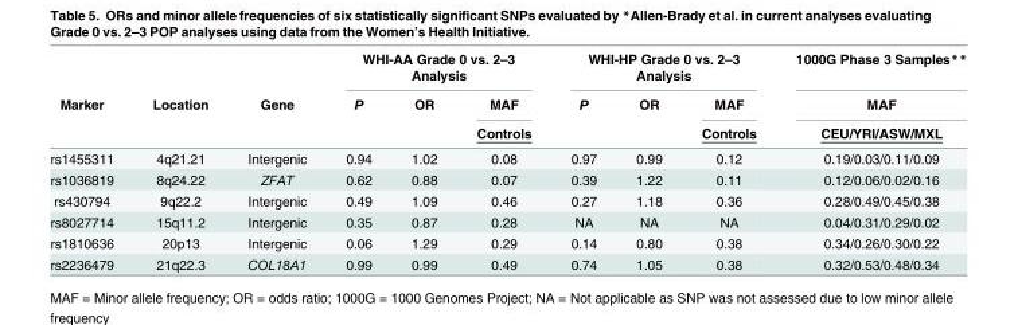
<table><thead><tr><td rowspan="2">Marker</td><td rowspan="2">Location</td><td rowspan="2">Gene</td><td colspan="3">WHI-AA Grade 0 vs. 2–3 Analysis</td><td colspan="3">WHI-HP Grade 0 vs. 2–3 Analysis</td><td rowspan="2">1000G Phase 3 Samples** MAF</td></tr><tr><td>P</td><td>OR</td><td>MAF</td><td>P</td><td>OR</td><td>MAF</td></tr></thead><tbody><tr><td></td><td></td><td></td><td></td><td></td><td>Controls</td><td></td><td></td><td>Controls</td><td>CEU/YRI/ASW/MXL</td></tr><tr><td>rs1455311</td><td>4q21.21</td><td>Intergenic</td><td>0.94</td><td>1.02</td><td>0.08</td><td>0.97</td><td>0.99</td><td>0.12</td><td>0.19/0.03/0.11/0.09</td></tr><tr><td>rs1036819</td><td>8q24.22</td><td>ZFAT</td><td>0.62</td><td>0.88</td><td>0.07</td><td>0.39</td><td>1.22</td><td>0.11</td><td>0.12/0.06/0.02/0.16</td></tr><tr><td>rs430794</td><td>9q22.2</td><td>Intergenic</td><td>0.49</td><td>1.09</td><td>0.46</td><td>0.27</td><td>1.18</td><td>0.36</td><td>0.28/0.49/0.45/0.38</td></tr><tr><td>rs8027714</td><td>15q11.2</td><td>Intergenic</td><td>0.35</td><td>0.87</td><td>0.28</td><td>NA</td><td>NA</td><td>NA</td><td>0.04/0.31/0.29/0.02</td></tr><tr><td>rs1810636</td><td>20p13</td><td>Intergenic</td><td>0.06</td><td>1.29</td><td>0.29</td><td>0.14</td><td>0.80</td><td>0.38</td><td>0.34/0.26/0.30/0.22</td></tr><tr><td>rs2236479</td><td>21q22.3</td><td>COL18A1</td><td>0.99</td><td>0.99</td><td>0.49</td><td>0.74</td><td>1.05</td><td>0.38</td><td>0.32/0.53/0.48/0.34</td></tr></tbody></table>